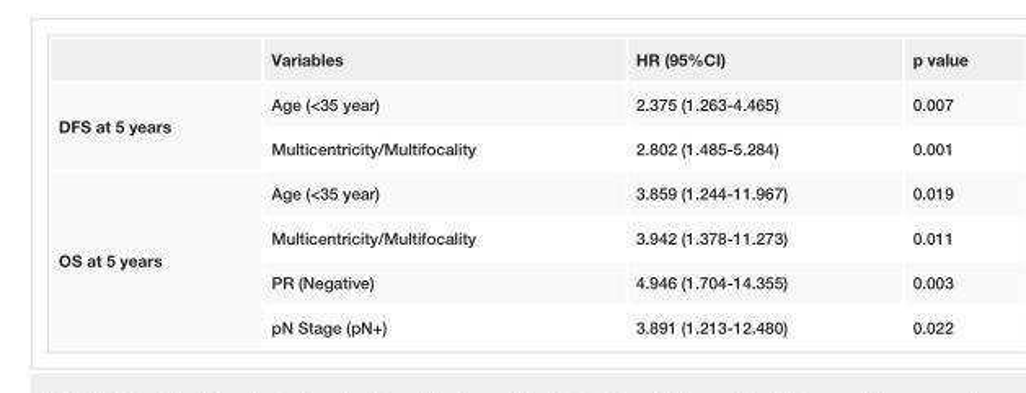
<table><thead><tr><td></td><td>Variables</td><td>HR (95%CI)</td><td>p value</td></tr></thead><tbody><tr><td rowspan="2">DFS at 5 years</td><td>Age (&lt;35 year)</td><td>2.375 (1.263-4.465)</td><td>0.007</td></tr><tr><td>Multicentricity/Multifocality</td><td>2.802 (1.485-5.284)</td><td>0.001</td></tr><tr><td rowspan="4">OS at 5 years</td><td>Age (&lt;35 year)</td><td>3.859 (1.244-11.967)</td><td>0.019</td></tr><tr><td>Multicentricity/Multifocality</td><td>3.942 (1.378-11.273)</td><td>0.011</td></tr><tr><td>PR (Negative)</td><td>4.946 (1.704-14.355)</td><td>0.003</td></tr><tr><td>pN Stage (pN+)</td><td>3.891 (1.213-12.480)</td><td>0.022</td></tr></tbody></table>